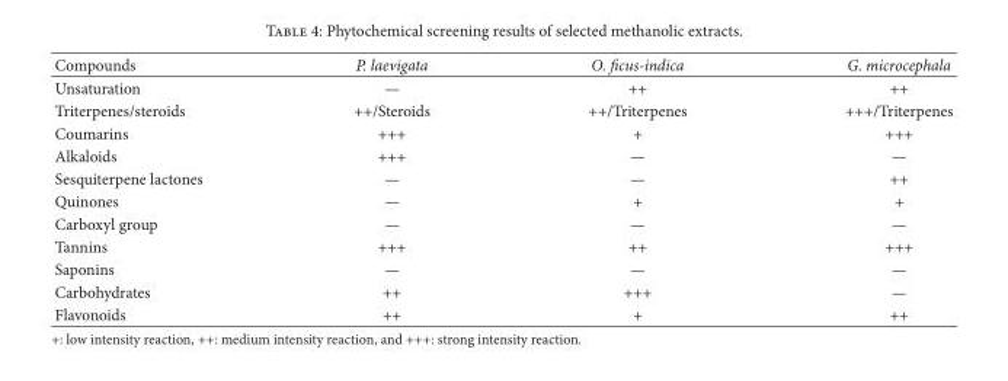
<table><thead><tr><td>Compounds</td><td>P. laevigata</td><td>O. ficus-indica</td><td>G. microcephala</td></tr></thead><tbody><tr><td>Unsaturation</td><td>—</td><td>++</td><td>++</td></tr><tr><td>Triterpenes/steroids</td><td>++/Steroids</td><td>++/Triterpenes</td><td>+++/Triterpenes</td></tr><tr><td>Coumarins</td><td>+++</td><td>+</td><td>+++</td></tr><tr><td>Alkaloids</td><td>+++</td><td>—</td><td>—</td></tr><tr><td>Sesquiterpene lactones</td><td>—</td><td>—</td><td>++</td></tr><tr><td>Quinones</td><td>—</td><td>+</td><td>+</td></tr><tr><td>Carboxyl group</td><td>—</td><td>—</td><td>—</td></tr><tr><td>Tannins</td><td>+++</td><td>++</td><td>+++</td></tr><tr><td>Saponins</td><td>—</td><td>—</td><td>—</td></tr><tr><td>Carbohydrates</td><td>++</td><td>+++</td><td>—</td></tr><tr><td>Flavonoids</td><td>++</td><td>+</td><td>++</td></tr></tbody></table>